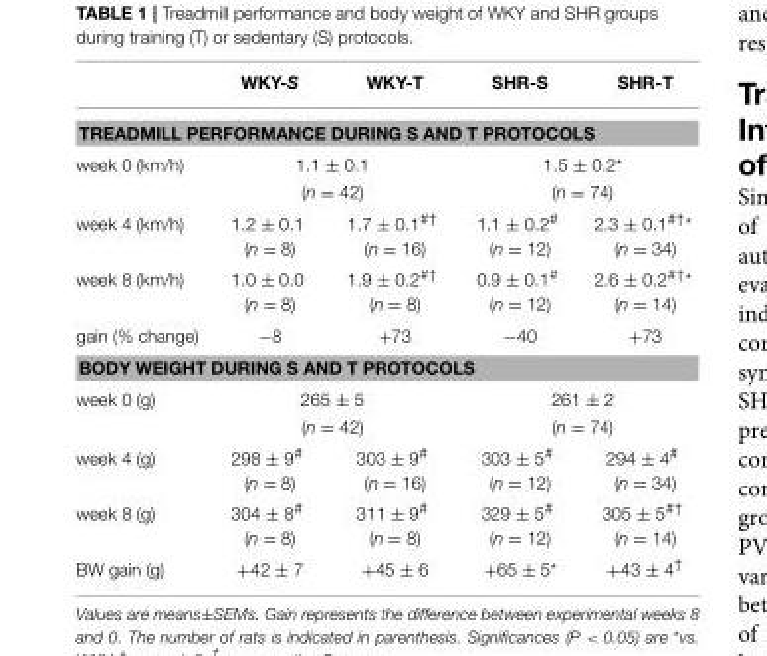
<table><thead><tr><td></td><td>WKY-S</td><td>WKY-T</td><td>SHR-S</td><td>SHR-T</td></tr></thead><tbody><tr><td colspan="5">TREADMILL PERFORMANCE DURING S AND T PROTOCOLS</td></tr><tr><td rowspan="2">week 0 (km/h)</td><td colspan="2">1.1 ± 0.1</td><td colspan="2">1.5 ± 0.2*</td></tr><tr><td colspan="2">(n = 42)</td><td colspan="2">(n = 74)</td></tr><tr><td>week 4 (km/h)</td><td>1.2 ± 0.1 (n = 8)</td><td>1.7 ± 0.1<sup>#†</sup> (n = 16)</td><td>1.1 ± 0.2<sup>#</sup> (n = 12)</td><td>2.3 ± 0.1<sup>#†*</sup> (n = 34)</td></tr><tr><td>week 8 (km/h)</td><td>1.0 ± 0.0 (n = 8)</td><td>1.9 ± 0.2<sup>#†</sup> (n = 8)</td><td>0.9 ± 0.1<sup>#</sup> (n = 12)</td><td>2.6 ± 0.2<sup>#†*</sup> (n = 14)</td></tr><tr><td>gain (% change)</td><td>−8</td><td>+73</td><td>−40</td><td>+73</td></tr><tr><td colspan="5">BODY WEIGHT DURING S AND T PROTOCOLS</td></tr><tr><td rowspan="2">week 0 (g)</td><td colspan="2">265 ± 5</td><td colspan="2">261 ± 2</td></tr><tr><td colspan="2">(n = 42)</td><td colspan="2">(n = 74)</td></tr><tr><td>week 4 (g)</td><td>298 ± 9<sup>#</sup> (n = 8)</td><td>303 ± 9<sup>#</sup> (n = 16)</td><td>303 ± 5<sup>#</sup> (n = 12)</td><td>294 ± 4<sup>#</sup> (n = 34)</td></tr><tr><td>week 8 (g)</td><td>304 ± 8<sup>#</sup> (n = 8)</td><td>311 ± 9<sup>#</sup> (n = 8)</td><td>329 ± 5<sup>#</sup> (n = 12)</td><td>305 ± 5<sup>#†</sup> (n = 14)</td></tr><tr><td>BW gain (g)</td><td>+42 ± 7</td><td>+45 ± 6</td><td>+65 ± 5*</td><td>+43 ± 4<sup>†</sup></td></tr></tbody></table>